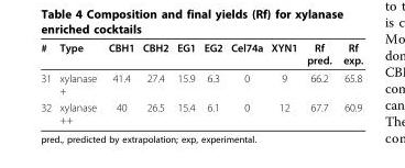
<table><thead><tr><td>#</td><td>Type</td><td>CBH1</td><td>CBH2</td><td>EG1</td><td>EG2</td><td>Cel74a</td><td>XYN1</td><td>Rf pred.</td><td>Rf exp.</td></tr></thead><tbody><tr><td>31</td><td>xylanase +</td><td>41.4</td><td>27.4</td><td>15.9</td><td>6.3</td><td>0</td><td>9</td><td>66.2</td><td>65.8</td></tr><tr><td>32</td><td>xylanase ++</td><td>40</td><td>26.5</td><td>15.4</td><td>6.1</td><td>0</td><td>12</td><td>67.7</td><td>60.9</td></tr></tbody></table>